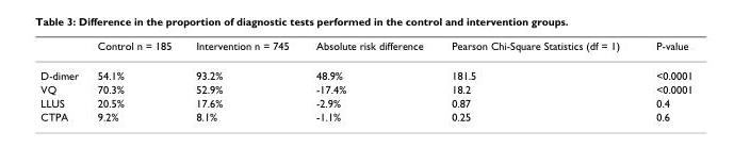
<table><thead><tr><td></td><td>Control n = 185</td><td>Intervention n = 745</td><td>Absolute risk difference</td><td>Pearson Chi-Square Statistics (df = 1)</td><td>P-value</td></tr></thead><tbody><tr><td>D-dimer</td><td>54.1%</td><td>93.2%</td><td>48.9%</td><td>181.5</td><td>&lt;0.0001</td></tr><tr><td>VQ</td><td>70.3%</td><td>52.9%</td><td>-17.4%</td><td>18.2</td><td>&lt;0.0001</td></tr><tr><td>LLUS</td><td>20.5%</td><td>17.6%</td><td>-2.9%</td><td>0.87</td><td>0.4</td></tr><tr><td>CTPA</td><td>9.2%</td><td>8.1%</td><td>-1.1%</td><td>0.25</td><td>0.6</td></tr></tbody></table>